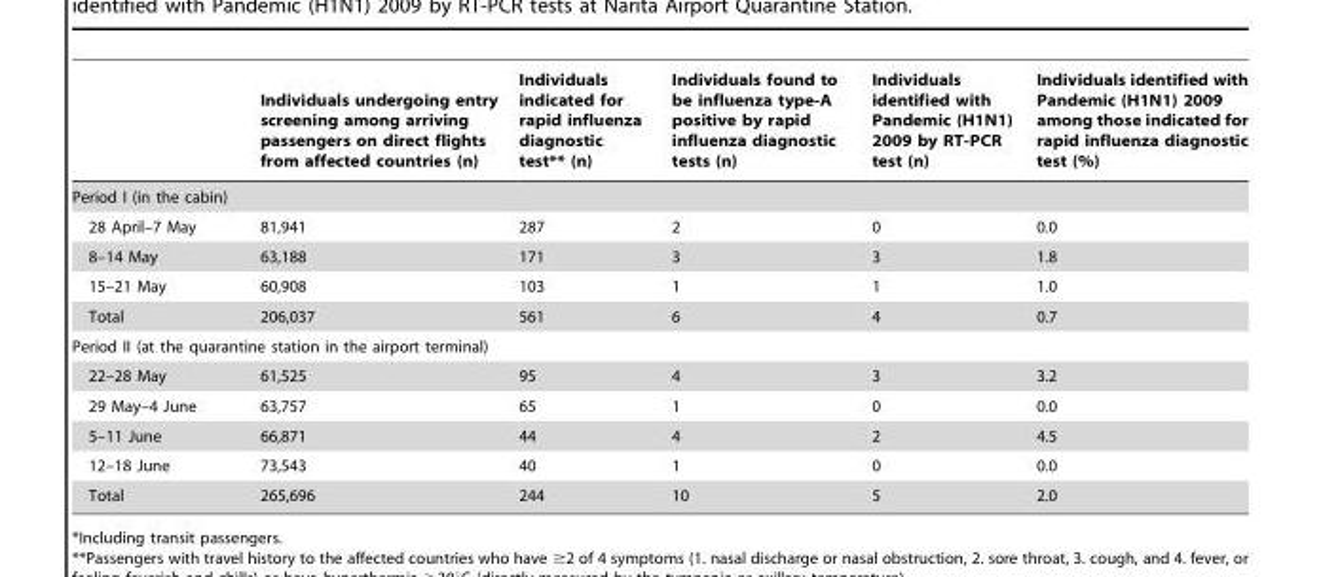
<table><thead><tr><td></td><td>Individuals undergoing entry screening among arriving passengers on direct flights from affected countries (n)</td><td>Individuals indicated for rapid influenza diagnostic test** (n)</td><td>Individuals found to be influenza type-A positive by rapid influenza diagnostic tests (n)</td><td>Individuals identified with Pandemic (H1N1) 2009 by RT-PCR test (n)</td><td>Individuals identified with Pandemic (H1N1) 2009 among those indicated for rapid influenza diagnostic test (%)</td></tr></thead><tbody><tr><td colspan="6">Period I (in the cabin)</td></tr><tr><td>28 April–7 May</td><td>81,941</td><td>287</td><td>2</td><td>0</td><td>0.0</td></tr><tr><td>8–14 May</td><td>63,188</td><td>171</td><td>3</td><td>3</td><td>1.8</td></tr><tr><td>15–21 May</td><td>60,908</td><td>103</td><td>1</td><td>1</td><td>1.0</td></tr><tr><td>Total</td><td>206,037</td><td>561</td><td>6</td><td>4</td><td>0.7</td></tr><tr><td colspan="6">Period II (at the quarantine station in the airport terminal)</td></tr><tr><td>22–28 May</td><td>61,525</td><td>95</td><td>4</td><td>3</td><td>3.2</td></tr><tr><td>29 May–4 June</td><td>63,757</td><td>65</td><td>1</td><td>0</td><td>0.0</td></tr><tr><td>5–11 June</td><td>66,871</td><td>44</td><td>4</td><td>2</td><td>4.5</td></tr><tr><td>12–18 June</td><td>73,543</td><td>40</td><td>1</td><td>0</td><td>0.0</td></tr><tr><td>Total</td><td>265,696</td><td>244</td><td>10</td><td>5</td><td>2.0</td></tr></tbody></table>